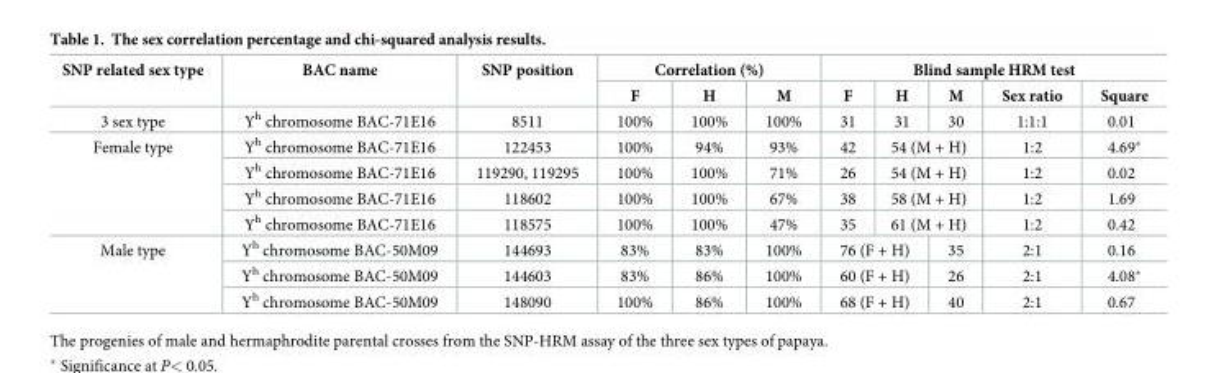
<table><thead><tr><td rowspan="2">SNP related sex type</td><td rowspan="2">BAC name</td><td rowspan="2">SNP position</td><td colspan="3">Correlation (%)</td><td colspan="5">Blind sample HRM test</td></tr><tr><td>F</td><td>H</td><td>M</td><td>F</td><td>H</td><td>M</td><td>Sex ratio</td><td>Square</td></tr></thead><tbody><tr><td>3 sex type</td><td>Y<sup>h</sup> chromosome BAC-71E16</td><td>8511</td><td>100%</td><td>100%</td><td>100%</td><td>31</td><td>31</td><td>30</td><td>1:1:1</td><td>0.01</td></tr><tr><td rowspan="4">Female type</td><td>Y<sup>h</sup> chromosome BAC-71E16</td><td>122453</td><td>100%</td><td>94%</td><td>93%</td><td>42</td><td colspan="2">54 (M + H)</td><td>1:2</td><td>4.69*</td></tr><tr><td>Y<sup>h</sup> chromosome BAC-71E16</td><td>119290, 119295</td><td>100%</td><td>100%</td><td>71%</td><td>26</td><td colspan="2">54 (M + H)</td><td>1:2</td><td>0.02</td></tr><tr><td>Y<sup>h</sup> chromosome BAC-71E16</td><td>118602</td><td>100%</td><td>100%</td><td>67%</td><td>38</td><td colspan="2">58 (M + H)</td><td>1:2</td><td>1.69</td></tr><tr><td>Y<sup>h</sup> chromosome BAC-71E16</td><td>118575</td><td>100%</td><td>100%</td><td>47%</td><td>35</td><td colspan="2">61 (M + H)</td><td>1:2</td><td>0.42</td></tr><tr><td rowspan="3">Male type</td><td>Y<sup>h</sup> chromosome BAC-50M09</td><td>144693</td><td>83%</td><td>83%</td><td>100%</td><td colspan="2">76 (F + H)</td><td>35</td><td>2:1</td><td>0.16</td></tr><tr><td>Y<sup>h</sup> chromosome BAC-50M09</td><td>144603</td><td>83%</td><td>86%</td><td>100%</td><td colspan="2">60 (F + H)</td><td>26</td><td>2:1</td><td>4.08*</td></tr><tr><td>Y<sup>h</sup> chromosome BAC-50M09</td><td>148090</td><td>100%</td><td>86%</td><td>100%</td><td colspan="2">68 (F + H)</td><td>40</td><td>2:1</td><td>0.67</td></tr></tbody></table>